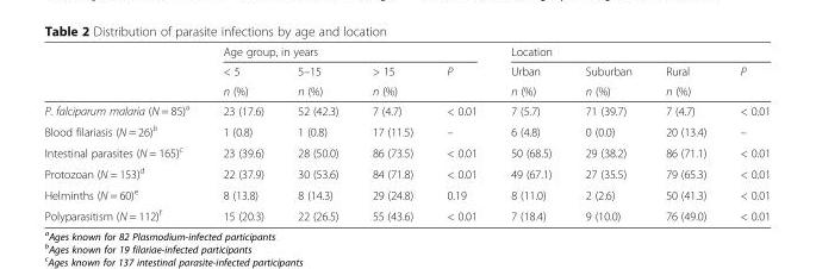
<table><thead><tr><td rowspan="3"></td><td colspan="4">Age group, in years</td><td colspan="4">Location</td></tr><tr><td rowspan="2">&lt; 5 n (%)</td><td rowspan="2">5–15 n (%)</td><td rowspan="2">&gt; 15 n (%)</td><td rowspan="2">P</td><td rowspan="2">Urban n (%)</td><td rowspan="2">Suburban n (%)</td><td rowspan="2">Rural n (%)</td><td rowspan="2">P</td></tr><tr></tr></thead><tbody><tr><td>P. falciparum malaria (N = 85)<sup>a</sup></td><td>23 (17.6)</td><td>52 (42.3)</td><td>7 (4.7)</td><td>&lt; 0.01</td><td>7 (5.7)</td><td>71 (39.7)</td><td>7 (4.7)</td><td>&lt; 0.01</td></tr><tr><td>Blood filariasis (N = 26)<sup>b</sup></td><td>1 (0.8)</td><td>1 (0.8)</td><td>17 (11.5)</td><td>–</td><td>6 (4.8)</td><td>0 (0.0)</td><td>20 (13.4)</td><td>–</td></tr><tr><td>Intestinal parasites (N = 165)<sup>c</sup></td><td>23 (39.6)</td><td>28 (50.0)</td><td>86 (73.5)</td><td>&lt; 0.01</td><td>50 (68.5)</td><td>29 (38.2)</td><td>86 (71.1)</td><td>&lt; 0.01</td></tr><tr><td>Protozoan (N = 153)<sup>d</sup></td><td>22 (37.9)</td><td>30 (53.6)</td><td>84 (71.8)</td><td>&lt; 0.01</td><td>49 (67.1)</td><td>27 (35.5)</td><td>79 (65.3)</td><td>&lt; 0.01</td></tr><tr><td>Helminths (N = 60)<sup>e</sup></td><td>8 (13.8)</td><td>8 (14.3)</td><td>29 (24.8)</td><td>0.19</td><td>8 (11.0)</td><td>2 (2.6)</td><td>50 (41.3)</td><td>&lt; 0.01</td></tr><tr><td>Polyparasitism (N = 112)<sup>f</sup></td><td>15 (20.3)</td><td>22 (26.5)</td><td>55 (43.6)</td><td>&lt; 0.01</td><td>7 (18.4)</td><td>9 (10.0)</td><td>76 (49.0)</td><td>&lt; 0.01</td></tr></tbody></table>